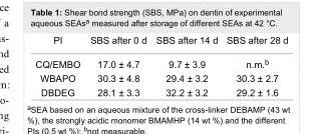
<table><tbody><tr><td>PI</td><td>SBS after 0 d</td><td>SBS after 14 d</td><td>SBS after 28 d</td></tr><tr><td>CQ/EMBO</td><td>17.0 ± 4.7</td><td>9.7 ± 3.9</td><td>n.m.<sup>b</sup></td></tr><tr><td>WBAPO</td><td>30.3 ± 4.8</td><td>29.4 ± 3.2</td><td>30.3 ± 2.7</td></tr><tr><td>DBDEG</td><td>28.1 ± 3.3</td><td>32.2 ± 3.2</td><td>29.2 ± 1.6</td></tr></tbody></table>